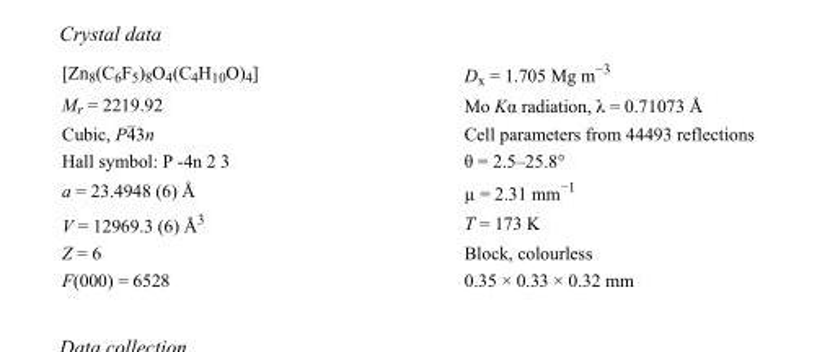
<table><tbody><tr><td>[Zn<sub>8</sub>(C<sub>6</sub>F<sub>5</sub>)<sub>8</sub>O<sub>4</sub>(C<sub>4</sub>H<sub>10</sub>O)<sub>4</sub>]</td><td>D<sub>x</sub> = 1.705 Mg m<sup>−3</sup></td></tr><tr><td>M<sub>r</sub> = 2219.92</td><td>Mo Kα radiation, λ = 0.71073 Å</td></tr><tr><td>Cubic, P43n</td><td>Cell parameters from 44493 reflections</td></tr><tr><td>Hall symbol: P -4n 2 3</td><td>θ = 2.5–25.8°</td></tr><tr><td>a = 23.4948 (6) Å</td><td>µ = 2.31 mm<sup>−1</sup></td></tr><tr><td>V = 12969.3 (6) Å<sup>3</sup></td><td>T = 173 K</td></tr><tr><td>Z = 6</td><td>Block, colourless</td></tr><tr><td>F(000) = 6528</td><td>0.35 × 0.33 × 0.32 mm</td></tr></tbody></table>